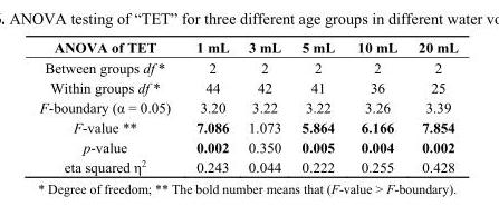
<table><thead><tr><td>ANOVA of TET</td><td>1 mL</td><td>3 mL</td><td>5 mL</td><td>10 mL</td><td>20 mL</td></tr></thead><tbody><tr><td>Between groups df *</td><td>2</td><td>2</td><td>2</td><td>2</td><td>2</td></tr><tr><td>Within groups df *</td><td>44</td><td>42</td><td>41</td><td>36</td><td>25</td></tr><tr><td>F-boundary (α = 0.05)</td><td>3.20</td><td>3.22</td><td>3.22</td><td>3.26</td><td>3.39</td></tr><tr><td>F-value **</td><td>7.086</td><td>1.073</td><td>5.864</td><td>6.166</td><td>7.854</td></tr><tr><td>p-value</td><td>0.002</td><td>0.350</td><td>0.005</td><td>0.004</td><td>0.002</td></tr><tr><td>eta squared η<sup>2</sup></td><td>0.243</td><td>0.044</td><td>0.222</td><td>0.255</td><td>0.428</td></tr></tbody></table>